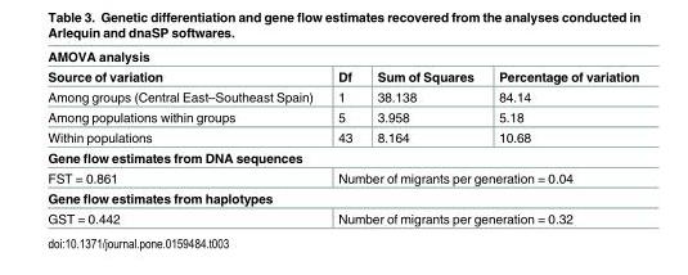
<table><tbody><tr><td colspan="4">AMOVA analysis</td></tr><tr><td>Source of variation</td><td>Df</td><td>Sum of Squares</td><td>Percentage of variation</td></tr><tr><td>Among groups (Central East–Southeast Spain)</td><td>1</td><td>38.138</td><td>84.14</td></tr><tr><td>Among populations within groups</td><td>5</td><td>3.958</td><td>5.18</td></tr><tr><td>Within populations</td><td>43</td><td>8.164</td><td>10.68</td></tr><tr><td colspan="4">Gene flow estimates from DNA sequences</td></tr><tr><td>FST = 0.861</td><td colspan="3">Number of migrants per generation = 0.04</td></tr><tr><td colspan="4">Gene flow estimates from haplotypes</td></tr><tr><td>GST = 0.442</td><td colspan="3">Number of migrants per generation = 0.32</td></tr></tbody></table>